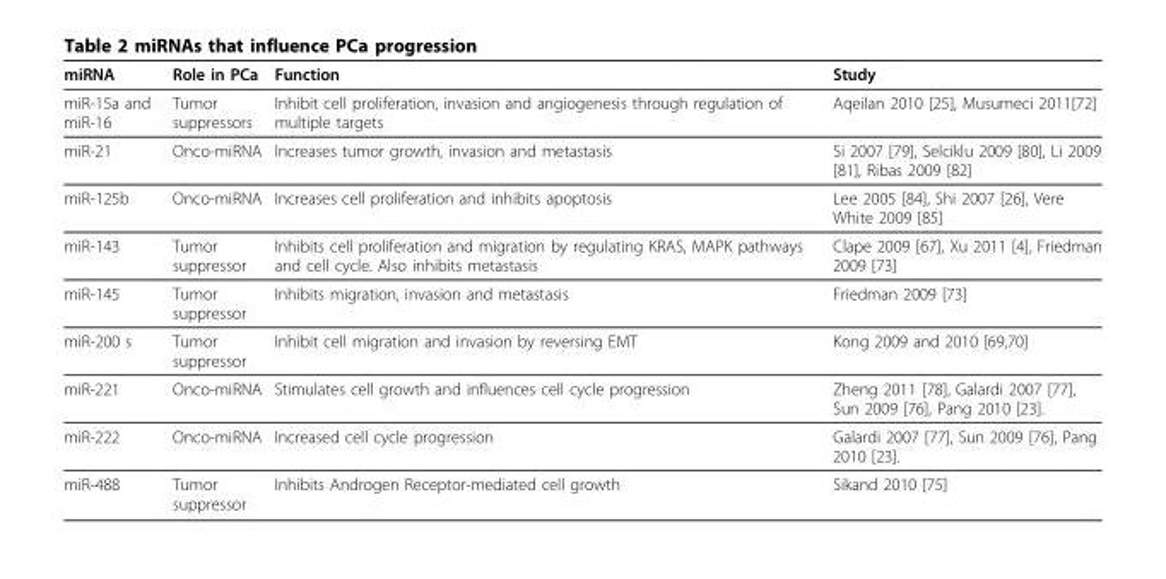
<table><thead><tr><td>miRNA</td><td>Role in PCa</td><td>Function</td><td>Study</td></tr></thead><tbody><tr><td>miR-15a and miR-16</td><td>Tumor suppressors</td><td>Inhibit cell proliferation, invasion and angiogenesis through regulation of multiple targets</td><td>Aqeilan 2010 [25], Musumeci 2011[72]</td></tr><tr><td>miR-21</td><td>Onco-miRNA</td><td>Increases tumor growth, invasion and metastasis</td><td>Si 2007 [79], Selciklu 2009 [80], Li 2009 [81], Ribas 2009 [82]</td></tr><tr><td>miR-125b</td><td>Onco-miRNA</td><td>Increases cell proliferation and inhibits apoptosis</td><td>Lee 2005 [84], Shi 2007 [26], Vere White 2009 [85]</td></tr><tr><td>miR-143</td><td>Tumor suppressor</td><td>Inhibits cell proliferation and migration by regulating KRAS, MAPK pathways and cell cycle. Also inhibits metastasis</td><td>Clape 2009 [67], Xu 2011 [4], Friedman 2009 [73]</td></tr><tr><td>miR-145</td><td>Tumor suppressor</td><td>Inhibits migration, invasion and metastasis</td><td>Friedman 2009 [73]</td></tr><tr><td>miR-200 s</td><td>Tumor suppressor</td><td>Inhibit cell migration and invasion by reversing EMT</td><td>Kong 2009 and 2010 [69,70]</td></tr><tr><td>miR-221</td><td>Onco-miRNA</td><td>Stimulates cell growth and influences cell cycle progression</td><td>Zheng 2011 [78], Galardi 2007 [77], Sun 2009 [76], Pang 2010 [23].</td></tr><tr><td>miR-222</td><td>Onco-miRNA</td><td>Increased cell cycle progression</td><td>Galardi 2007 [77], Sun 2009 [76], Pang 2010 [23].</td></tr><tr><td>miR-488</td><td>Tumor suppressor</td><td>Inhibits Androgen Receptor-mediated cell growth</td><td>Sikand 2010 [75]</td></tr></tbody></table>